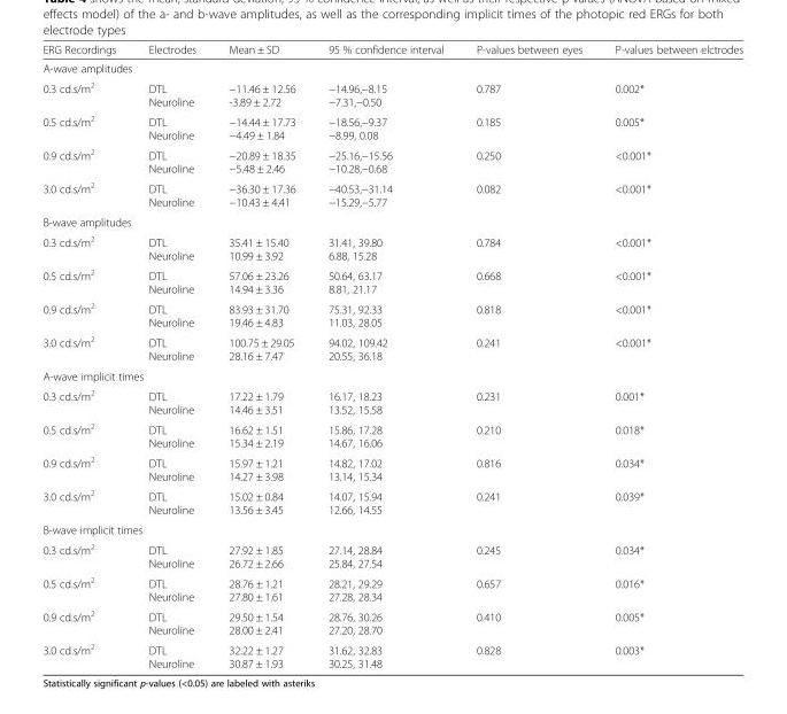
<table><thead><tr><td>ERG Recordings</td><td>Electrodes</td><td>Mean ± SD</td><td>95 % confidence interval</td><td>P-values between eyes</td><td>P-values between elctrodes</td></tr></thead><tbody><tr><td colspan="6">A-wave amplitudes</td></tr><tr><td>0.3 cd.s/m<sup>2</sup></td><td>DTL Neuroline</td><td>−11.46 ± 12.56 -3.89 ± 2.72</td><td>−14.96,−8.15 −7.31,−0.50</td><td>0.787</td><td>0.002*</td></tr><tr><td>0.5 cd.s/m<sup>2</sup></td><td>DTL Neuroline</td><td>−14.44 ± 17.73 −4.49 ± 1.84</td><td>−18.56,−9.37 −8.99, 0.08</td><td>0.185</td><td>0.005*</td></tr><tr><td>0.9 cd.s/m<sup>2</sup></td><td>DTL Neuroline</td><td>−20.89 ± 18.35 −5.48 ± 2.46</td><td>−25.16,−15.56 −10.28,−0.68</td><td>0.250</td><td>&lt;0.001*</td></tr><tr><td>3.0 cd.s/m<sup>2</sup></td><td>DTL Neuroline</td><td>−36.30 ± 17.36 −10.43 ± 4.41</td><td>−40.53,−31.14 −15.29,−5.77</td><td>0.082</td><td>&lt;0.001*</td></tr><tr><td colspan="6">B-wave amplitudes</td></tr><tr><td>0.3 cd.s/m<sup>2</sup></td><td>DTL Neuroline</td><td>35.41 ± 15.40 10.99 ± 3.92</td><td>31.41, 39.80 6.88, 15.28</td><td>0.784</td><td>&lt;0.001*</td></tr><tr><td>0.5 cd.s/m<sup>2</sup></td><td>DTL Neuroline</td><td>57.06 ± 23.26 14.94 ± 3.36</td><td>50.64, 63.17 8.81, 21.17</td><td>0.668</td><td>&lt;0.001*</td></tr><tr><td>0.9 cd.s/m<sup>2</sup></td><td>DTL Neuroline</td><td>83.93 ± 31.70 19.46 ± 4.83</td><td>75.31, 92.33 11.03, 28.05</td><td>0.818</td><td>&lt;0.001*</td></tr><tr><td>3.0 cd.s/m<sup>2</sup></td><td>DTL Neuroline</td><td>100.75 ± 29.05 28.16 ± 7.47</td><td>94.02, 109.42 20.55, 36.18</td><td>0.241</td><td>&lt;0.001*</td></tr><tr><td colspan="6">A-wave implicit times</td></tr><tr><td>0.3 cd.s/m<sup>2</sup></td><td>DTL Neuroline</td><td>17.22 ± 1.79 14.46 ± 3.51</td><td>16.17, 18.23 13.52, 15.58</td><td>0.231</td><td>0.001*</td></tr><tr><td>0.5 cd.s/m<sup>2</sup></td><td>DTL Neuroline</td><td>16.62 ± 1.51 15.34 ± 2.19</td><td>15.86, 17.28 14.67, 16.06</td><td>0.210</td><td>0.018*</td></tr><tr><td>0.9 cd.s/m<sup>2</sup></td><td>DTL Neuroline</td><td>15.97 ± 1.21 14.27 ± 3.98</td><td>14.82, 17.02 13.14, 15.34</td><td>0.816</td><td>0.034*</td></tr><tr><td>3.0 cd.s/m<sup>2</sup></td><td>DTL Neuroline</td><td>15.02 ± 0.84 13.56 ± 3.45</td><td>14.07, 15.94 12.66, 14.55</td><td>0.241</td><td>0.039*</td></tr><tr><td colspan="6">B-wave implicit times</td></tr><tr><td>0.3 cd.s/m<sup>2</sup></td><td>DTL Neuroline</td><td>27.92 ± 1.85 26.72 ± 2.66</td><td>27.14, 28.84 25.84, 27.54</td><td>0.245</td><td>0.034*</td></tr><tr><td>0.5 cd.s/m<sup>2</sup></td><td>DTL Neuroline</td><td>28.76 ± 1.21 27.80 ± 1.61</td><td>28.21, 29.29 27.28, 28.34</td><td>0.657</td><td>0.016*</td></tr><tr><td>0.9 cd.s/m<sup>2</sup></td><td>DTL Neuroline</td><td>29.50 ± 1.54 28.00 ± 2.41</td><td>28.76, 30.26 27.20, 28.70</td><td>0.410</td><td>0.005*</td></tr><tr><td>3.0 cd.s/m<sup>2</sup></td><td>DTL Neuroline</td><td>32.22 ± 1.27 30.87 ± 1.93</td><td>31.62, 32.83 30.25, 31.48</td><td>0.828</td><td>0.003*</td></tr></tbody></table>